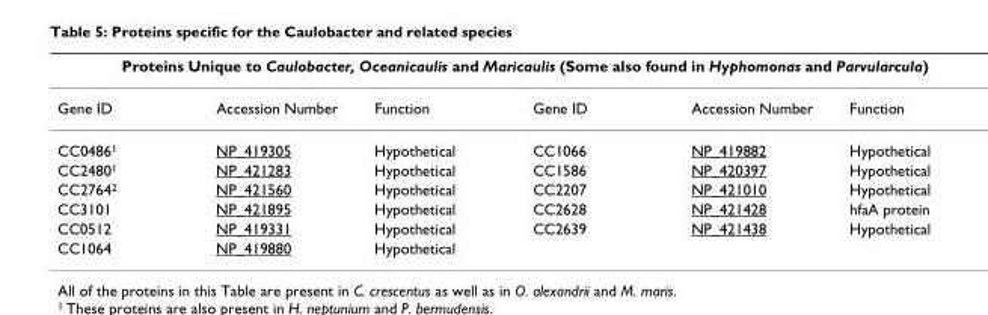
<table><thead><tr><td colspan="6">Proteins Unique to Caulobacter, Oceanicaulis and Maricaulis (Some also found in Hyphomonas and Parvularcula)</td></tr><tr><td>Gene ID</td><td>Accession Number</td><td>Function</td><td>Gene ID</td><td>Accession Number</td><td>Function</td></tr></thead><tbody><tr><td>CC0486<sup>1</sup></td><td>NP_419305</td><td>Hypothetical</td><td>CC1066</td><td>NP_419882</td><td>Hypothetical</td></tr><tr><td>CC2480<sup>1</sup></td><td>NP_421283</td><td>Hypothetical</td><td>CC1586</td><td>NP_420397</td><td>Hypothetical</td></tr><tr><td>CC2764<sup>2</sup></td><td>NP_421560</td><td>Hypothetical</td><td>CC2207</td><td>NP_421010</td><td>Hypothetical</td></tr><tr><td>CC3101</td><td>NP_421895</td><td>Hypothetical</td><td>CC2628</td><td>NP_421428</td><td>hfaA protein</td></tr><tr><td>CC0512</td><td>NP_419331</td><td>Hypothetical</td><td>CC2639</td><td>NP_421438</td><td>Hypothetical</td></tr><tr><td>CC1064</td><td>NP_419880</td><td>Hypothetical</td><td></td><td></td><td></td></tr></tbody></table>